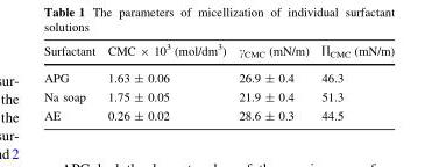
<table><thead><tr><td>Surfactant</td><td>CMC × 10<sup>3</sup> (mol/dm<sup>3</sup>)</td><td>γ<sub>CMC</sub> (mN/m)</td><td>П<sub>CMC</sub> (mN/m)</td></tr></thead><tbody><tr><td>APG</td><td>1.63 ± 0.06</td><td>26.9 ± 0.4</td><td>46.3</td></tr><tr><td>Na soap</td><td>1.75 ± 0.05</td><td>21.9 ± 0.4</td><td>51.3</td></tr><tr><td>AE</td><td>0.26 ± 0.02</td><td>28.6 ± 0.3</td><td>44.5</td></tr></tbody></table>